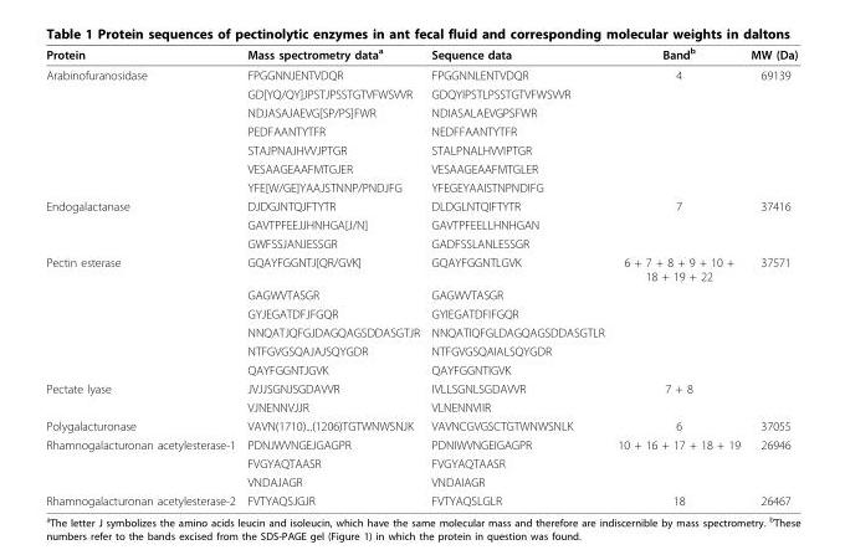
<table><thead><tr><td>Protein</td><td>Mass spectrometry data<sup>a</sup></td><td>Sequence data</td><td>Band<sup>b</sup></td><td>MW (Da)</td></tr></thead><tbody><tr><td rowspan="7">Arabinofuranosidase</td><td>FPGGNNJENTVDQR</td><td>FPGGNNLENTVDQR</td><td>4</td><td>69139</td></tr><tr><td>GD[YQ/QY]JPSTJPSSTGTVFWSVVR</td><td>GDQYIPSTLPSSTGTVFWSVVR</td><td></td><td></td></tr><tr><td>NDJASAJAEVG[SP/PS]FWR</td><td>NDIASALAEVGPSFWR</td><td></td><td></td></tr><tr><td>PEDFAANTYTFR</td><td>NEDFFAANTYTFR</td><td></td><td></td></tr><tr><td>STAJPNAJHVVJPTGR</td><td>STALPNALHVVIPTGR</td><td></td><td></td></tr><tr><td>VESAAGEAAFMTGJER</td><td>VESAAGEAAFMTGLER</td><td></td><td></td></tr><tr><td>YFE[W/GE]YAAJSTNNP/PNDJFG</td><td>YFEGEYAAISTNPNDIFG</td><td></td><td></td></tr><tr><td rowspan="3">Endogalactanase</td><td>DJDGJNTQJFTYTR</td><td>DLDGLNTQIFTYTR</td><td>7</td><td>37416</td></tr><tr><td>GAVTPFEEJJHNHGA[J/N]</td><td>GAVTPFEELLHNHGAN</td><td></td><td></td></tr><tr><td>GWFSSJANJESSGR</td><td>GADFSSLANLESSGR</td><td></td><td></td></tr><tr><td rowspan="6">Pectin esterase</td><td>GQAYFGGNTJ[QR/GVK]</td><td>GQAYFGGNTLGVK</td><td>6 + 7 + 8 + 9 + 10 + 18 + 19 + 22</td><td>37571</td></tr><tr><td>GAGWVTASGR</td><td>GAGWVTASGR</td><td></td><td></td></tr><tr><td>GYJEGATDFJFGQR</td><td>GYIEGATDFIFGQR</td><td></td><td></td></tr><tr><td>NNQATJQFGJDAGQAGSDDASGTJR</td><td>NNQATIQFGLDAGQAGSDDASGTLR</td><td></td><td></td></tr><tr><td>NTFGVGSQAJAJSQYGDR</td><td>NTFGVGSQAIALSQYGDR</td><td></td><td></td></tr><tr><td>QAYFGGNTJGVK</td><td>QAYFGGNTIGVK</td><td></td><td></td></tr><tr><td rowspan="2">Pectate lyase</td><td>JVJJSGNJSGDAVVR</td><td>IVLLSGNLSGDAVVR</td><td>7 + 8</td><td></td></tr><tr><td>VJNENNVJJR</td><td>VLNENNVIIR</td><td></td><td></td></tr><tr><td>Polygalacturonase</td><td>VAVN(1710)...(1206)TGTWNWSNJK</td><td>VAVNCGVGSCTGTWNWSNLK</td><td>6</td><td>37055</td></tr><tr><td rowspan="3">Rhamnogalacturonan acetylesterase-1</td><td>PDNJWVNGEJGAGPR</td><td>PDNIWVNGEIGAGPR</td><td>10 + 16 + 17 + 18 + 19</td><td>26946</td></tr><tr><td>FVGYAQTAASR</td><td>FVGYAQTAASR</td><td></td><td></td></tr><tr><td>VNDAJAGR</td><td>VNDAIAGR</td><td></td><td></td></tr><tr><td>Rhamnogalacturonan acetylesterase-2</td><td>FVTYAQSJGJR</td><td>FVTYAQSLGLR</td><td>18</td><td>26467</td></tr></tbody></table>